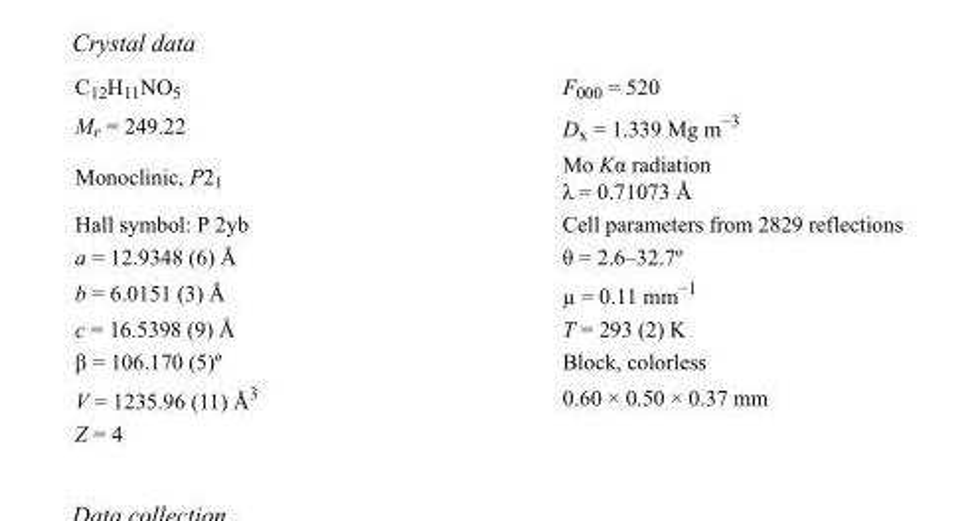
<table><tbody><tr><td>C<sub>12</sub>H<sub>11</sub>NO<sub>5</sub></td><td>F<sub>000</sub> = 520</td></tr><tr><td>M<sub>r</sub> = 249.22</td><td>D<sub>x</sub> = 1.339 Mg m<sup>−3</sup></td></tr><tr><td>Monoclinic, P2<sub>1</sub></td><td>Mo Kα radiation λ = 0.71073 Å</td></tr><tr><td>Hall symbol: P 2yb</td><td>Cell parameters from 2829 reflections</td></tr><tr><td>a = 12.9348 (6) Å</td><td>θ = 2.6–32.7º</td></tr><tr><td>b = 6.0151 (3) Å</td><td>µ = 0.11 mm<sup>−1</sup></td></tr><tr><td>c = 16.5398 (9) Å</td><td>T = 293 (2) K</td></tr><tr><td>β = 106.170 (5)º</td><td>Block, colorless</td></tr><tr><td>V = 1235.96 (11) Å<sup>3</sup></td><td>0.60 × 0.50 × 0.37 mm</td></tr><tr><td>Z = 4</td><td></td></tr></tbody></table>